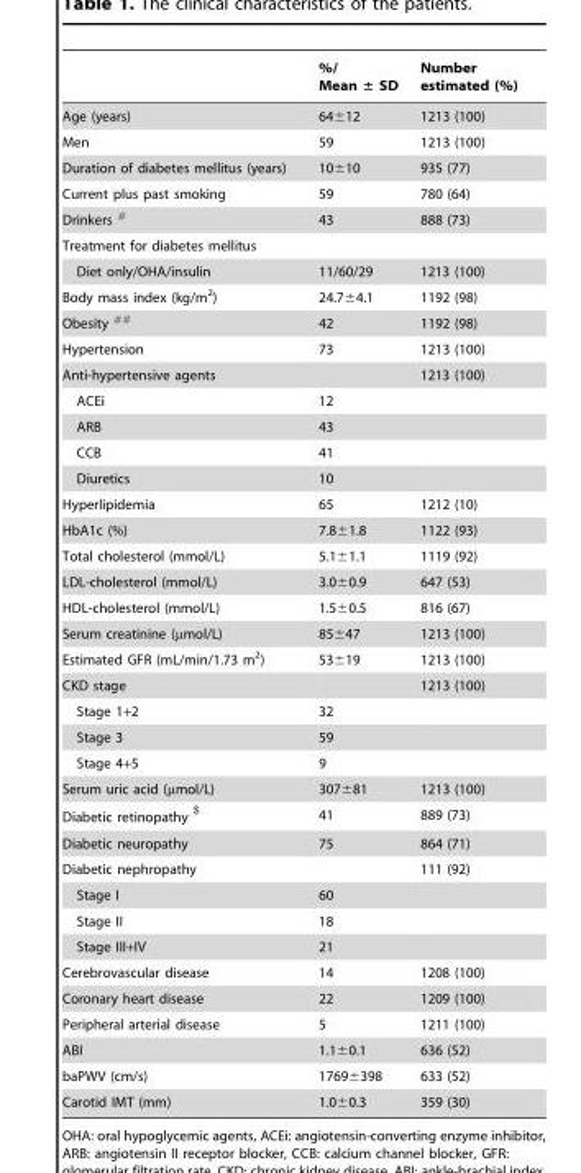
<table><thead><tr><td></td><td>%/ Mean ± SD</td><td>Number estimated (%)</td></tr></thead><tbody><tr><td>Age (years)</td><td>64±12</td><td>1213 (100)</td></tr><tr><td>Men</td><td>59</td><td>1213 (100)</td></tr><tr><td>Duration of diabetes mellitus (years)</td><td>10±10</td><td>935 (77)</td></tr><tr><td>Current plus past smoking</td><td>59</td><td>780 (64)</td></tr><tr><td>Drinkers #</td><td>43</td><td>888 (73)</td></tr><tr><td colspan="3">Treatment for diabetes mellitus</td></tr><tr><td>Diet only/OHA/insulin</td><td>11/60/29</td><td>1213 (100)</td></tr><tr><td>Body mass index (kg/m<sup>2</sup>)</td><td>24.7±4.1</td><td>1192 (98)</td></tr><tr><td>Obesity ##</td><td>42</td><td>1192 (98)</td></tr><tr><td>Hypertension</td><td>73</td><td>1213 (100)</td></tr><tr><td>Anti-hypertensive agents</td><td></td><td>1213 (100)</td></tr><tr><td>ACEi</td><td>12</td><td></td></tr><tr><td>ARB</td><td>43</td><td></td></tr><tr><td>CCB</td><td>41</td><td></td></tr><tr><td>Diuretics</td><td>10</td><td></td></tr><tr><td>Hyperlipidemia</td><td>65</td><td>1212 (10)</td></tr><tr><td>HbA1c (%)</td><td>7.8±1.8</td><td>1122 (93)</td></tr><tr><td>Total cholesterol (mmol/L)</td><td>5.1±1.1</td><td>1119 (92)</td></tr><tr><td>LDL-cholesterol (mmol/L)</td><td>3.0±0.9</td><td>647 (53)</td></tr><tr><td>HDL-cholesterol (mmol/L)</td><td>1.5±0.5</td><td>816 (67)</td></tr><tr><td>Serum creatinine (μmol/L)</td><td>85±47</td><td>1213 (100)</td></tr><tr><td>Estimated GFR (mL/min/1.73 m<sup>2</sup>)</td><td>53±19</td><td>1213 (100)</td></tr><tr><td>CKD stage</td><td></td><td>1213 (100)</td></tr><tr><td>Stage 1+2</td><td>32</td><td></td></tr><tr><td>Stage 3</td><td>59</td><td></td></tr><tr><td>Stage 4+5</td><td>9</td><td></td></tr><tr><td>Serum uric acid (μmol/L)</td><td>307±81</td><td>1213 (100)</td></tr><tr><td>Diabetic retinopathy $</td><td>41</td><td>889 (73)</td></tr><tr><td>Diabetic neuropathy</td><td>75</td><td>864 (71)</td></tr><tr><td>Diabetic nephropathy</td><td></td><td>111 (92)</td></tr><tr><td>Stage I</td><td>60</td><td></td></tr><tr><td>Stage II</td><td>18</td><td></td></tr><tr><td>Stage III+IV</td><td>21</td><td></td></tr><tr><td>Cerebrovascular disease</td><td>14</td><td>1208 (100)</td></tr><tr><td>Coronary heart disease</td><td>22</td><td>1209 (100)</td></tr><tr><td>Peripheral arterial disease</td><td>5</td><td>1211 (100)</td></tr><tr><td>ABI</td><td>1.1±0.1</td><td>636 (52)</td></tr><tr><td>baPWV (cm/s)</td><td>1769±398</td><td>633 (52)</td></tr><tr><td>Carotid IMT (mm)</td><td>1.0±0.3</td><td>359 (30)</td></tr></tbody></table>